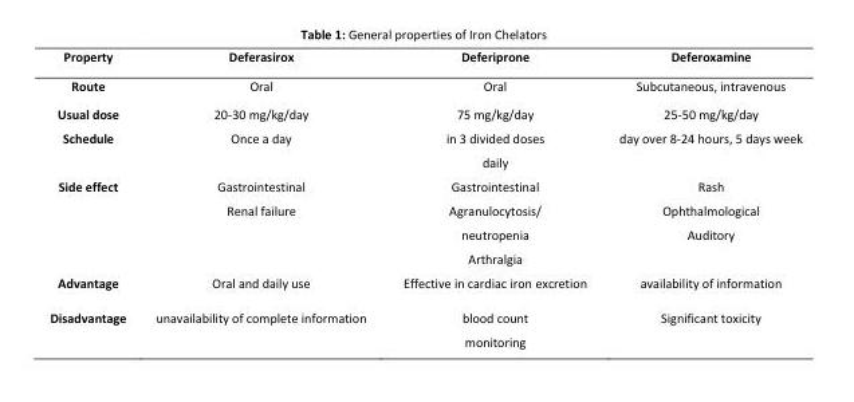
<table><thead><tr><td>Property</td><td>Deferasirox</td><td>Deferiprone</td><td>Deferoxamine</td></tr></thead><tbody><tr><td>Route</td><td>Oral</td><td>Oral</td><td>Subcutaneous, intravenous</td></tr><tr><td>Usual dose</td><td>20-30 mg/kg/day</td><td>75 mg/kg/day</td><td>25-50 mg/kg/day</td></tr><tr><td>Schedule</td><td>Once a day</td><td>in 3 divided doses daily</td><td>day over 8-24 hours, 5 days week</td></tr><tr><td>Side effect</td><td>Gastrointestinal Renal failure</td><td>Gastrointestinal Agranulocytosis/ neutropenia Arthralgia</td><td>Rash Ophthalmological Auditory</td></tr><tr><td>Advantage</td><td>Oral and daily use</td><td>Effective in cardiac iron excretion</td><td>availability of information</td></tr><tr><td>Disadvantage</td><td>unavailability of complete information</td><td>blood count monitoring</td><td>Significant toxicity</td></tr></tbody></table>